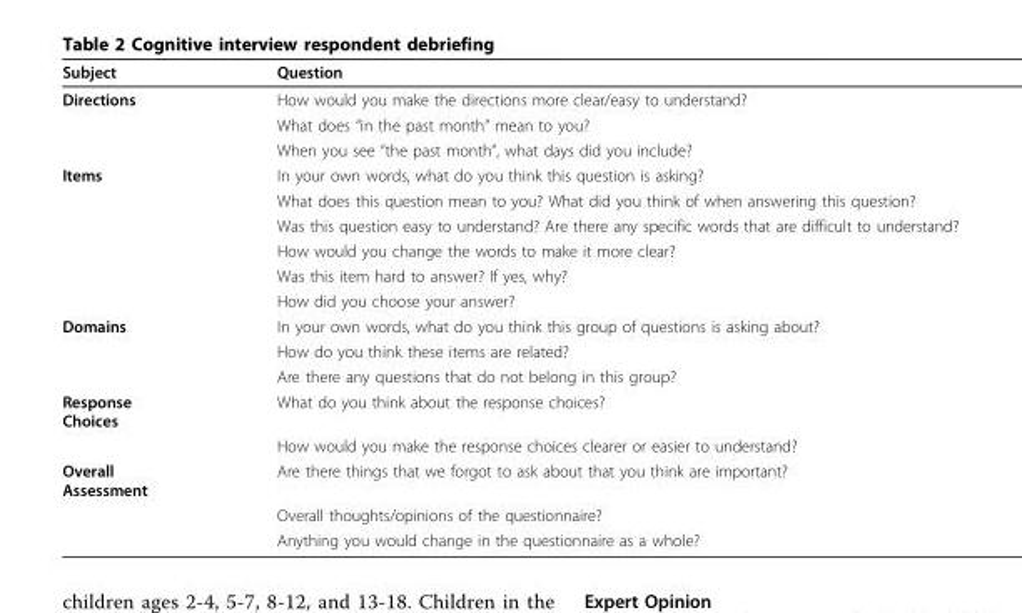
<table><thead><tr><td>Subject</td><td>Question</td></tr></thead><tbody><tr><td rowspan="3">Directions</td><td>How would you make the directions more clear/easy to understand?</td></tr><tr><td>What does “in the past month” mean to you?</td></tr><tr><td>When you see “the past month”, what days did you include?</td></tr><tr><td rowspan="6">Items</td><td>In your own words, what do you think this question is asking?</td></tr><tr><td>What does this question mean to you? What did you think of when answering this question?</td></tr><tr><td>Was this question easy to understand? Are there any specific words that are difficult to understand?</td></tr><tr><td>How would you change the words to make it more clear?</td></tr><tr><td>Was this item hard to answer? If yes, why?</td></tr><tr><td>How did you choose your answer?</td></tr><tr><td rowspan="3">Domains</td><td>In your own words, what do you think this group of questions is asking about?</td></tr><tr><td>How do you think these items are related?</td></tr><tr><td>Are there any questions that do not belong in this group?</td></tr><tr><td rowspan="2">Response Choices</td><td>What do you think about the response choices?</td></tr><tr><td>How would you make the response choices clearer or easier to understand?</td></tr><tr><td rowspan="3">Overall Assessment</td><td>Are there things that we forgot to ask about that you think are important?</td></tr><tr><td>Overall thoughts/opinions of the questionnaire?</td></tr><tr><td>Anything you would change in the questionnaire as a whole?</td></tr></tbody></table>